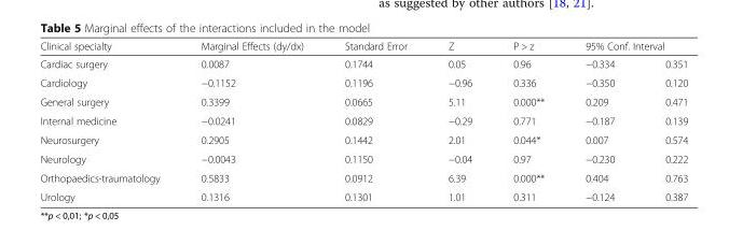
<table><thead><tr><td rowspan="2">Clinical specialty Cardiac surgery</td><td rowspan="2">Marginal Effects (dy/dx) 0.0087</td><td rowspan="2">Standard Error 0.1744</td><td rowspan="2">Z 0.05</td><td rowspan="2">P &gt; z 0.96</td><td colspan="2">95% Conf. Interval</td></tr><tr><td>−0.334</td><td>0.351</td></tr></thead><tbody><tr><td>Cardiology</td><td>−0.1152</td><td>0.1196</td><td>−0.96</td><td>0.336</td><td>−0.350</td><td>0.120</td></tr><tr><td>General surgery</td><td>0.3399</td><td>0.0665</td><td>5.11</td><td>0.000**</td><td>0.209</td><td>0.471</td></tr><tr><td>Internal medicine</td><td>−0.0241</td><td>0.0829</td><td>−0.29</td><td>0.771</td><td>−0.187</td><td>0.139</td></tr><tr><td>Neurosurgery</td><td>0.2905</td><td>0.1442</td><td>2.01</td><td>0.044*</td><td>0.007</td><td>0.574</td></tr><tr><td>Neurology</td><td>−0.0043</td><td>0.1150</td><td>−0.04</td><td>0.97</td><td>−0.230</td><td>0.222</td></tr><tr><td>Orthopaedics-traumatology</td><td>0.5833</td><td>0.0912</td><td>6.39</td><td>0.000**</td><td>0.404</td><td>0.763</td></tr><tr><td>Urology</td><td>0.1316</td><td>0.1301</td><td>1.01</td><td>0.311</td><td>−0.124</td><td>0.387</td></tr></tbody></table>